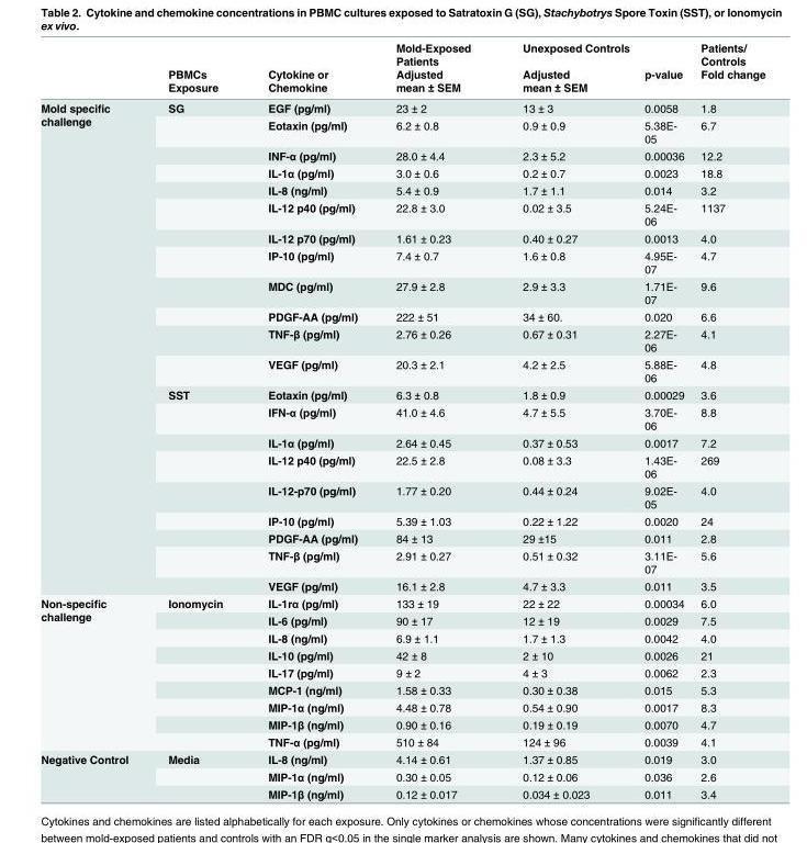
<table><thead><tr><td rowspan="2"></td><td rowspan="2">PBMCs Exposure</td><td rowspan="2">Cytokine or Chemokine</td><td rowspan="2">Mold-Exposed Patients Adjusted mean ± SEM</td><td rowspan="2">Unexposed Controls Adjusted mean ± SEM</td><td rowspan="2">p-value</td><td rowspan="2">Patients/ Controls Fold change</td></tr><tr></tr></thead><tbody><tr><td rowspan="21">Mold specific challenge</td><td>SG</td><td>EGF (pg/ml)</td><td>23 ± 2</td><td>13 ± 3</td><td>0.0058</td><td>1.8</td></tr><tr><td></td><td>Eotaxin (pg/ml)</td><td>6.2 ± 0.8</td><td>0.9 ± 0.9</td><td>5.38E- 05</td><td>6.7</td></tr><tr><td></td><td>INF-α (pg/ml)</td><td>28.0 ± 4.4</td><td>2.3 ± 5.2</td><td>0.00036</td><td>12.2</td></tr><tr><td></td><td>IL-1α (pg/ml)</td><td>3.0 ± 0.6</td><td>0.2 ± 0.7</td><td>0.0023</td><td>18.8</td></tr><tr><td></td><td>IL-8 (ng/ml)</td><td>5.4 ± 0.9</td><td>1.7 ± 1.1</td><td>0.014</td><td>3.2</td></tr><tr><td></td><td>IL-12 p40 (pg/ml)</td><td>22.8 ± 3.0</td><td>0.02 ± 3.5</td><td>5.24E- 06</td><td>1137</td></tr><tr><td></td><td>IL-12 p70 (pg/ml)</td><td>1.61 ± 0.23</td><td>0.40 ± 0.27</td><td>0.0013</td><td>4.0</td></tr><tr><td></td><td>IP-10 (pg/ml)</td><td>7.4 ± 0.7</td><td>1.6 ± 0.8</td><td>4.95E- 07</td><td>4.7</td></tr><tr><td></td><td>MDC (pg/ml)</td><td>27.9 ± 2.8</td><td>2.9 ± 3.3</td><td>1.71E- 07</td><td>9.6</td></tr><tr><td></td><td>PDGF-AA (pg/ml)</td><td>222 ± 51</td><td>34 ± 60.</td><td>0.020</td><td>6.6</td></tr><tr><td></td><td>TNF-β (pg/ml)</td><td>2.76 ± 0.26</td><td>0.67 ± 0.31</td><td>2.27E- 06</td><td>4.1</td></tr><tr><td></td><td>VEGF (pg/ml)</td><td>20.3 ± 2.1</td><td>4.2 ± 2.5</td><td>5.88E- 06</td><td>4.8</td></tr><tr><td>SST</td><td>Eotaxin (pg/ml)</td><td>6.3 ± 0.8</td><td>1.8 ± 0.9</td><td>0.00029</td><td>3.6</td></tr><tr><td></td><td>IFN-α (pg/ml)</td><td>41.0 ± 4.6</td><td>4.7 ± 5.5</td><td>3.70E- 06</td><td>8.8</td></tr><tr><td></td><td>IL-1α (pg/ml)</td><td>2.64 ± 0.45</td><td>0.37 ± 0.53</td><td>0.0017</td><td>7.2</td></tr><tr><td></td><td>IL-12 p40 (pg/ml)</td><td>22.5 ± 2.8</td><td>0.08 ± 3.3</td><td>1.43E- 06</td><td>269</td></tr><tr><td></td><td>IL-12-p70 (pg/ml)</td><td>1.77 ± 0.20</td><td>0.44 ± 0.24</td><td>9.02E- 05</td><td>4.0</td></tr><tr><td></td><td>IP-10 (pg/ml)</td><td>5.39 ± 1.03</td><td>0.22 ± 1.22</td><td>0.0020</td><td>24</td></tr><tr><td></td><td>PDGF-AA (pg/ml)</td><td>84 ± 13</td><td>29 ±15</td><td>0.011</td><td>2.8</td></tr><tr><td></td><td>TNF-β (pg/ml)</td><td>2.91 ± 0.27</td><td>0.51 ± 0.32</td><td>3.11E- 07</td><td>5.6</td></tr><tr><td></td><td>VEGF (pg/ml)</td><td>16.1 ± 2.8</td><td>4.7 ± 3.3</td><td>0.011</td><td>3.5</td></tr><tr><td rowspan="9">Non-specific challenge</td><td>Ionomycin</td><td>IL-1rα (pg/ml)</td><td>133 ± 19</td><td>22 ± 22</td><td>0.00034</td><td>6.0</td></tr><tr><td></td><td>IL-6 (pg/ml)</td><td>90 ± 17</td><td>12 ± 19</td><td>0.0029</td><td>7.5</td></tr><tr><td></td><td>IL-8 (ng/ml)</td><td>6.9 ± 1.1</td><td>1.7 ± 1.3</td><td>0.0042</td><td>4.0</td></tr><tr><td></td><td>IL-10 (pg/ml)</td><td>42 ± 8</td><td>2 ± 10</td><td>0.0026</td><td>21</td></tr><tr><td></td><td>IL-17 (pg/ml)</td><td>9 ± 2</td><td>4 ± 3</td><td>0.0062</td><td>2.3</td></tr><tr><td></td><td>MCP-1 (ng/ml)</td><td>1.58 ± 0.33</td><td>0.30 ± 0.38</td><td>0.015</td><td>5.3</td></tr><tr><td></td><td>MIP-1α (ng/ml)</td><td>4.48 ± 0.78</td><td>0.54 ± 0.90</td><td>0.0017</td><td>8.3</td></tr><tr><td></td><td>MIP-1β (ng/ml)</td><td>0.90 ± 0.16</td><td>0.19 ± 0.19</td><td>0.0070</td><td>4.7</td></tr><tr><td></td><td>TNF-α (pg/ml)</td><td>510 ± 84</td><td>124 ± 96</td><td>0.0039</td><td>4.1</td></tr><tr><td rowspan="3">Negative Control</td><td>Media</td><td>IL-8 (ng/ml)</td><td>4.14 ± 0.61</td><td>1.37 ± 0.85</td><td>0.019</td><td>3.0</td></tr><tr><td></td><td>MIP-1α (ng/ml)</td><td>0.30 ± 0.05</td><td>0.12 ± 0.06</td><td>0.036</td><td>2.6</td></tr><tr><td></td><td>MIP-1β (ng/ml)</td><td>0.12 ± 0.017</td><td>0.034 ± 0.023</td><td>0.011</td><td>3.4</td></tr></tbody></table>